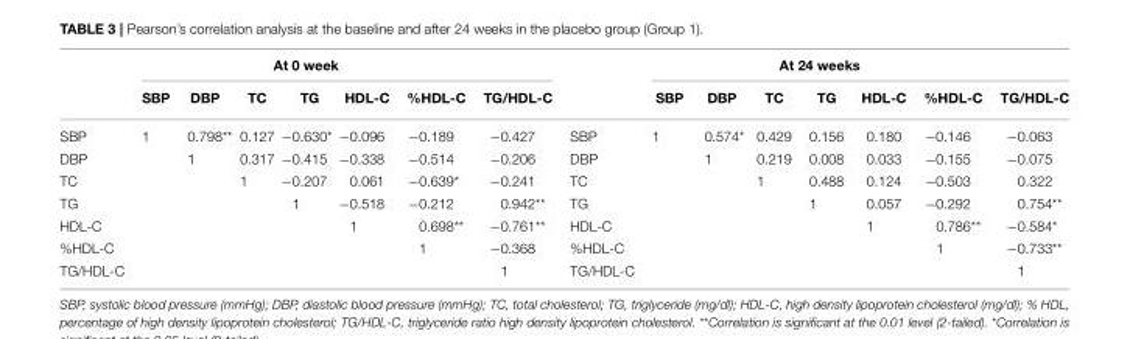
<table><thead><tr><td rowspan="2"></td><td colspan="7">At 0 week</td><td rowspan="2"></td><td colspan="7">At 24 weeks</td></tr><tr><td>SBP</td><td>DBP</td><td>TC</td><td>TG</td><td>HDL-C</td><td>%HDL-C</td><td>TG/HDL-C</td><td>SBP</td><td>DBP</td><td>TC</td><td>TG</td><td>HDL-C</td><td>%HDL-C</td><td>TG/HDL-C</td></tr></thead><tbody><tr><td>SBP</td><td>1</td><td>0.798**</td><td>0.127</td><td>−0.630*</td><td>−0.096</td><td>−0.189</td><td>−0.427</td><td>SBP</td><td>1</td><td>0.574*</td><td>0.429</td><td>0.156</td><td>0.180</td><td>−0.146</td><td>−0.063</td></tr><tr><td>DBP</td><td></td><td>1</td><td>0.317</td><td>−0.415</td><td>−0.338</td><td>−0.514</td><td>−0.206</td><td>DBP</td><td></td><td>1</td><td>0.219</td><td>0.008</td><td>0.033</td><td>−0.155</td><td>−0.075</td></tr><tr><td>TC</td><td></td><td></td><td>1</td><td>−0.207</td><td>0.061</td><td>−0.639*</td><td>−0.241</td><td>TC</td><td></td><td></td><td>1</td><td>0.488</td><td>0.124</td><td>−0.503</td><td>0.322</td></tr><tr><td>TG</td><td></td><td></td><td></td><td>1</td><td>−0.518</td><td>−0.212</td><td>0.942**</td><td>TG</td><td></td><td></td><td></td><td>1</td><td>0.057</td><td>−0.292</td><td>0.754**</td></tr><tr><td>HDL-C</td><td></td><td></td><td></td><td></td><td>1</td><td>0.698**</td><td>−0.761**</td><td>HDL-C</td><td></td><td></td><td></td><td></td><td>1</td><td>0.786**</td><td>−0.584*</td></tr><tr><td>%HDL-C</td><td></td><td></td><td></td><td></td><td></td><td>1</td><td>−0.368</td><td>%HDL-C</td><td></td><td></td><td></td><td></td><td></td><td>1</td><td>−0.733**</td></tr><tr><td>TG/HDL-C</td><td></td><td></td><td></td><td></td><td></td><td></td><td>1</td><td>TG/HDL-C</td><td></td><td></td><td></td><td></td><td></td><td></td><td>1</td></tr></tbody></table>